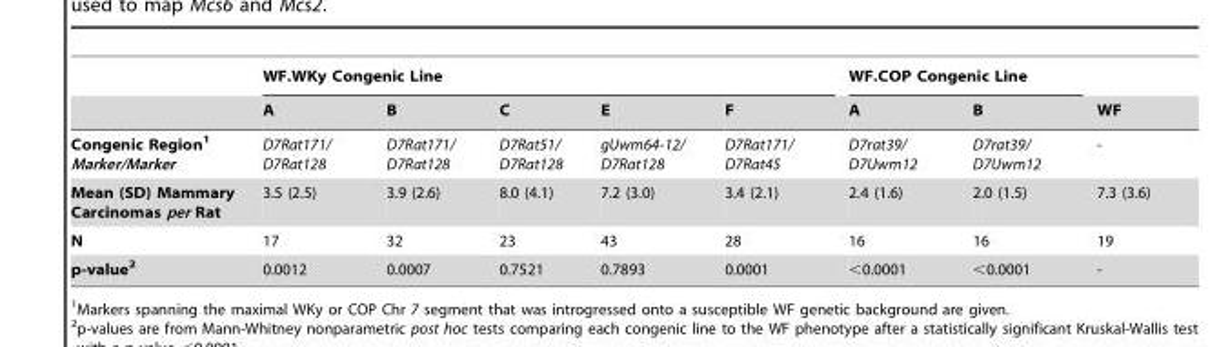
<table><thead><tr><td rowspan="2"></td><td colspan="5">WF.WKy Congenic Line</td><td colspan="2">WF.COP Congenic Line</td><td rowspan="2">WF</td></tr><tr><td>A</td><td>B</td><td>C</td><td>E</td><td>F</td><td>A</td><td>B</td></tr></thead><tbody><tr><td>Congenic Region1 Marker/Marker</td><td>D7Rat171/ D7Rat128</td><td>D7Rat171/ D7Rat128</td><td>D7Rat51/ D7Rat128</td><td>gUwm64-12/ D7Rat128</td><td>D7Rat171/ D7Rat45</td><td>D7rat39/ D7Uwm12</td><td>D7rat39/ D7Uwm12</td><td>-</td></tr><tr><td>Mean (SD) Mammary Carcinomas per Rat</td><td>3.5 (2.5)</td><td>3.9 (2.6)</td><td>8.0 (4.1)</td><td>7.2 (3.0)</td><td>3.4 (2.1)</td><td>2.4 (1.6)</td><td>2.0 (1.5)</td><td>7.3 (3.6)</td></tr><tr><td>N</td><td>17</td><td>32</td><td>23</td><td>43</td><td>28</td><td>16</td><td>16</td><td>19</td></tr><tr><td>p-value2</td><td>0.0012</td><td>0.0007</td><td>0.7521</td><td>0.7893</td><td>0.0001</td><td>&lt;0.0001</td><td>&lt;0.0001</td><td>-</td></tr></tbody></table>